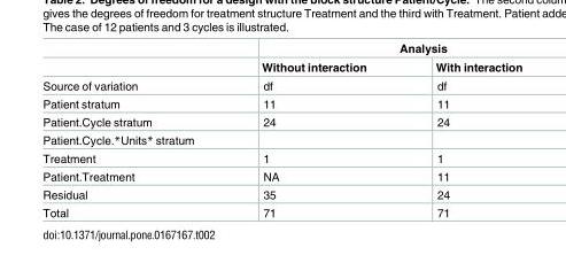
<table><thead><tr><td rowspan="2"></td><td colspan="2">Analysis</td></tr><tr><td>Without interaction</td><td>With interaction</td></tr></thead><tbody><tr><td>Source of variation</td><td>df</td><td>df</td></tr><tr><td>Patient stratum</td><td>11</td><td>11</td></tr><tr><td>Patient.Cycle stratum</td><td>24</td><td>24</td></tr><tr><td colspan="3">Patient.Cycle.*Units* stratum</td></tr><tr><td>Treatment</td><td>1</td><td>1</td></tr><tr><td>Patient.Treatment</td><td>NA</td><td>11</td></tr><tr><td>Residual</td><td>35</td><td>24</td></tr><tr><td>Total</td><td>71</td><td>71</td></tr></tbody></table>